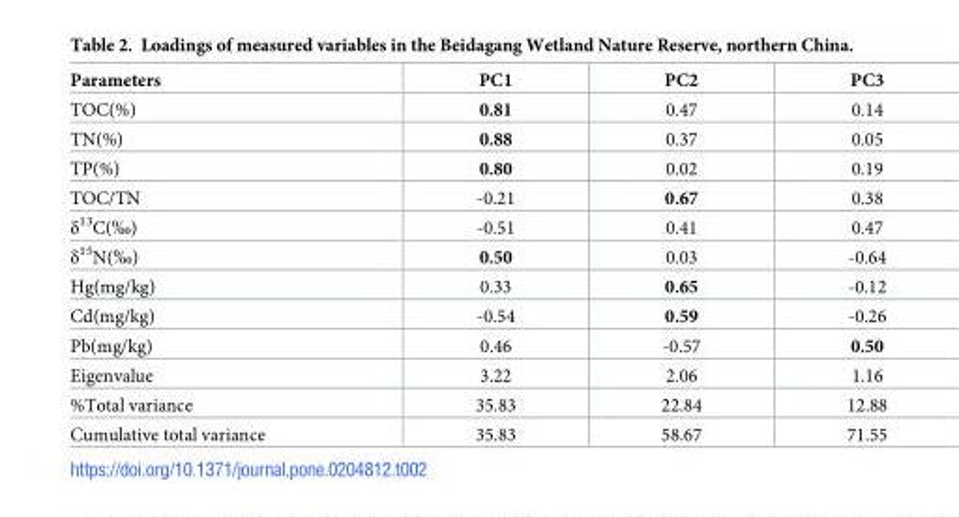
<table><thead><tr><td>Parameters</td><td>PC1</td><td>PC2</td><td>PC3</td></tr></thead><tbody><tr><td>TOC(%)</td><td>0.81</td><td>0.47</td><td>0.14</td></tr><tr><td>TN(%)</td><td>0.88</td><td>0.37</td><td>0.05</td></tr><tr><td>TP(%)</td><td>0.80</td><td>0.02</td><td>0.19</td></tr><tr><td>TOC/TN</td><td>-0.21</td><td>0.67</td><td>0.38</td></tr><tr><td>δ<sup>13</sup>C(‰)</td><td>-0.51</td><td>0.41</td><td>0.47</td></tr><tr><td>δ<sup>15</sup>N(‰)</td><td>0.50</td><td>0.03</td><td>-0.64</td></tr><tr><td>Hg(mg/kg)</td><td>0.33</td><td>0.65</td><td>-0.12</td></tr><tr><td>Cd(mg/kg)</td><td>-0.54</td><td>0.59</td><td>-0.26</td></tr><tr><td>Pb(mg/kg)</td><td>0.46</td><td>-0.57</td><td>0.50</td></tr><tr><td>Eigenvalue</td><td>3.22</td><td>2.06</td><td>1.16</td></tr><tr><td>%Total variance</td><td>35.83</td><td>22.84</td><td>12.88</td></tr><tr><td>Cumulative total variance</td><td>35.83</td><td>58.67</td><td>71.55</td></tr></tbody></table>